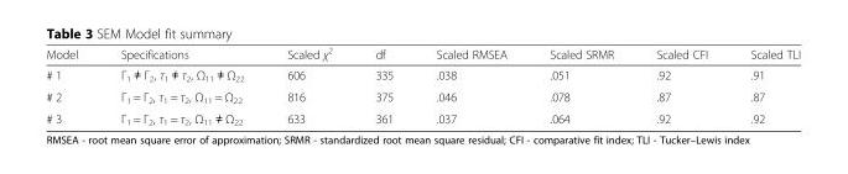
<table><thead><tr><td>Model</td><td>Specifications</td><td>Scaled χ<sup>2</sup></td><td>df</td><td>Scaled RMSEA</td><td>Scaled SRMR</td><td>Scaled CFI</td><td>Scaled TLI</td></tr></thead><tbody><tr><td># 1</td><td>Γ<sub>1</sub> ≠ Γ<sub>2</sub>, τ<sub>1</sub> ≠ τ<sub>2</sub>, Ω<sub>11</sub> ≠ Ω<sub>22</sub></td><td>606</td><td>335</td><td>.038</td><td>.051</td><td>.92</td><td>.91</td></tr><tr><td># 2</td><td>Γ<sub>1</sub> = Γ<sub>2</sub>, τ<sub>1</sub> = τ<sub>2</sub>, Ω<sub>11</sub> = Ω<sub>22</sub></td><td>816</td><td>375</td><td>.046</td><td>.078</td><td>.87</td><td>.87</td></tr><tr><td># 3</td><td>Γ<sub>1</sub> = Γ<sub>2</sub>, τ<sub>1</sub> = τ<sub>2</sub>, Ω<sub>11</sub> ≠ Ω<sub>22</sub></td><td>633</td><td>361</td><td>.037</td><td>.064</td><td>.92</td><td>.92</td></tr></tbody></table>